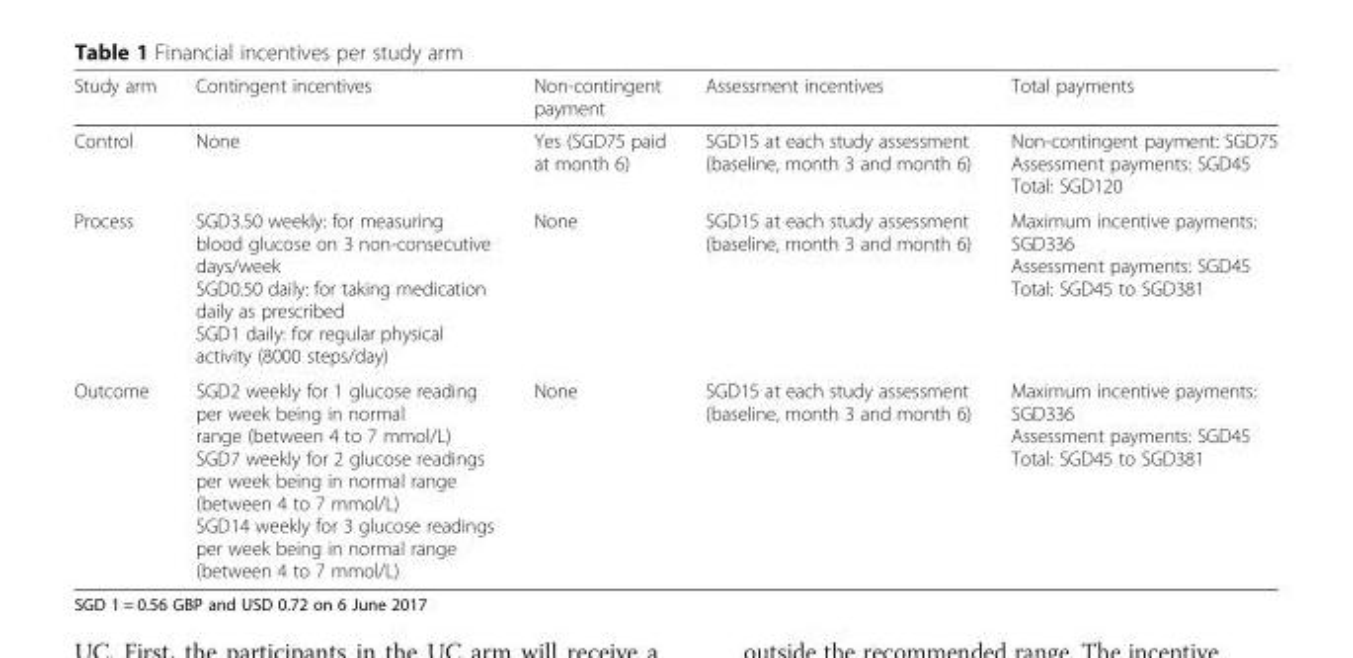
<table><thead><tr><td>Study arm</td><td>Contingent incentives</td><td>Non-contingent payment</td><td>Assessment incentives</td><td>Total payments</td></tr></thead><tbody><tr><td>Control</td><td>None</td><td>Yes (SGD75 paid at month 6)</td><td>SGD15 at each study assessment (baseline, month 3 and month 6)</td><td>Non-contingent payment: SGD75 Assessment payments: SGD45 Total: SGD120</td></tr><tr><td>Process</td><td>SGD3.50 weekly: for measuring blood glucose on 3 non-consecutive days/week SGD0.50 daily: for taking medication daily as prescribed SGD1 daily: for regular physical activity (8000 steps/day)</td><td>None</td><td>SGD15 at each study assessment (baseline, month 3 and month 6)</td><td>Maximum incentive payments: SGD336 Assessment payments: SGD45 Total: SGD45 to SGD381</td></tr><tr><td>Outcome</td><td>SGD2 weekly for 1 glucose reading per week being in normal range (between 4 to 7 mmol/L) SGD7 weekly for 2 glucose readings per week being in normal range (between 4 to 7 mmol/L) SGD14 weekly for 3 glucose readings per week being in normal range (between 4 to 7 mmol/L)</td><td>None</td><td>SGD15 at each study assessment (baseline, month 3 and month 6)</td><td>Maximum incentive payments: SGD336 Assessment payments: SGD45 Total: SGD45 to SGD381</td></tr></tbody></table>